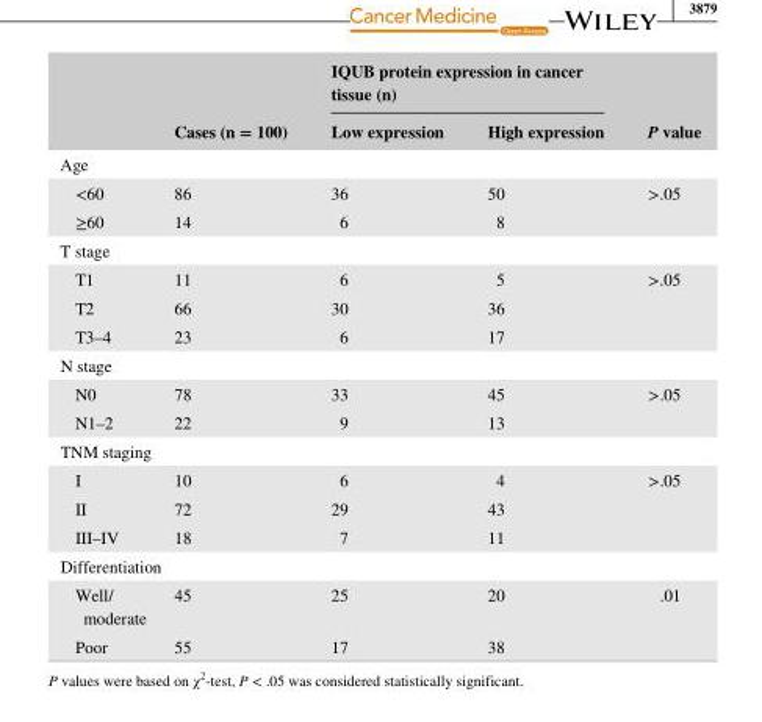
<table><thead><tr><td rowspan="2"></td><td rowspan="2">Cases (n = 100)</td><td colspan="2">IQUB protein expression in cancer tissue (n)</td><td rowspan="2">P value</td></tr><tr><td>Low expression</td><td>High expression</td></tr></thead><tbody><tr><td colspan="5">Age</td></tr><tr><td>&lt;60</td><td>86</td><td>36</td><td>50</td><td rowspan="2">&gt;.05</td></tr><tr><td>≥60</td><td>14</td><td>6</td><td>8</td></tr><tr><td colspan="5">T stage</td></tr><tr><td>T1</td><td>11</td><td>6</td><td>5</td><td rowspan="3">&gt;.05</td></tr><tr><td>T2</td><td>66</td><td>30</td><td>36</td></tr><tr><td>T3–4</td><td>23</td><td>6</td><td>17</td></tr><tr><td colspan="5">N stage</td></tr><tr><td>N0</td><td>78</td><td>33</td><td>45</td><td rowspan="2">&gt;.05</td></tr><tr><td>N1–2</td><td>22</td><td>9</td><td>13</td></tr><tr><td colspan="5">TNM staging</td></tr><tr><td>I</td><td>10</td><td>6</td><td>4</td><td rowspan="3">&gt;.05</td></tr><tr><td>II</td><td>72</td><td>29</td><td>43</td></tr><tr><td>III–IV</td><td>18</td><td>7</td><td>11</td></tr><tr><td colspan="5">Differentiation</td></tr><tr><td>Well/ moderate</td><td>45</td><td>25</td><td>20</td><td rowspan="2">.01</td></tr><tr><td>Poor</td><td>55</td><td>17</td><td>38</td></tr></tbody></table>